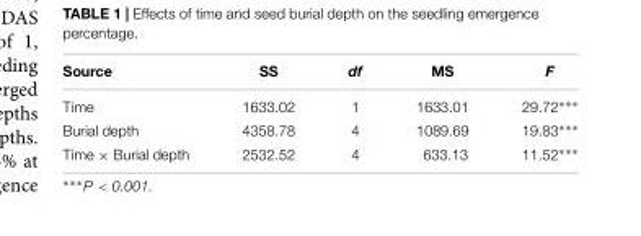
<table><thead><tr><td>Source</td><td>SS</td><td>df</td><td>MS</td><td>F</td></tr></thead><tbody><tr><td>Time</td><td>1633.02</td><td>1</td><td>1633.01</td><td>29.72∗∗∗</td></tr><tr><td>Burial depth</td><td>4358.78</td><td>4</td><td>1089.69</td><td>19.83∗∗∗</td></tr><tr><td>Time × Burial depth</td><td>2532.52</td><td>4</td><td>633.13</td><td>11.52∗∗∗</td></tr></tbody></table>